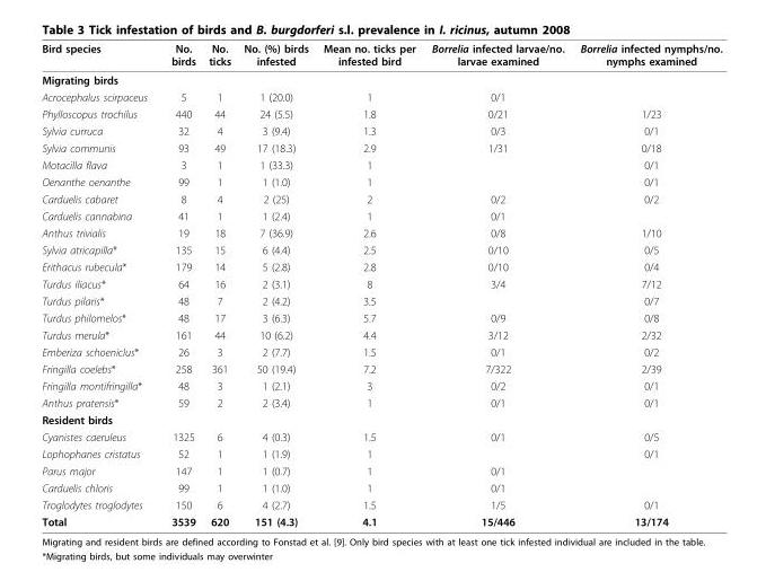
<table><thead><tr><td>Bird species</td><td>No. birds</td><td>No. ticks</td><td>No. (%) birds infested</td><td>Mean no. ticks per infested bird</td><td>Borrelia infected larvae/no. larvae examined</td><td>Borrelia infected nymphs/no. nymphs examined</td></tr></thead><tbody><tr><td colspan="7">Migrating birds</td></tr><tr><td>Acrocephalus scirpaceus</td><td>5</td><td>1</td><td>1 (20.0)</td><td>1</td><td>0/1</td><td></td></tr><tr><td>Phylloscopus trochilus</td><td>440</td><td>44</td><td>24 (5.5)</td><td>1.8</td><td>0/21</td><td>1/23</td></tr><tr><td>Sylvia curruca</td><td>32</td><td>4</td><td>3 (9.4)</td><td>1.3</td><td>0/3</td><td>0/1</td></tr><tr><td>Sylvia communis</td><td>93</td><td>49</td><td>17 (18.3)</td><td>2.9</td><td>1/31</td><td>0/18</td></tr><tr><td>Motacilla flava</td><td>3</td><td>1</td><td>1 (33.3)</td><td>1</td><td></td><td>0/1</td></tr><tr><td>Oenanthe oenanthe</td><td>99</td><td>1</td><td>1 (1.0)</td><td>1</td><td></td><td>0/1</td></tr><tr><td>Carduelis cabaret</td><td>8</td><td>4</td><td>2 (25)</td><td>2</td><td>0/2</td><td>0/2</td></tr><tr><td>Carduelis cannabina</td><td>41</td><td>1</td><td>1 (2.4)</td><td>1</td><td>0/1</td><td></td></tr><tr><td>Anthus trivialis</td><td>19</td><td>18</td><td>7 (36.9)</td><td>2.6</td><td>0/8</td><td>1/10</td></tr><tr><td>Sylvia atricapilla*</td><td>135</td><td>15</td><td>6 (4.4)</td><td>2.5</td><td>0/10</td><td>0/5</td></tr><tr><td>Erithacus rubecula*</td><td>179</td><td>14</td><td>5 (2.8)</td><td>2.8</td><td>0/10</td><td>0/4</td></tr><tr><td>Turdus iliacus*</td><td>64</td><td>16</td><td>2 (3.1)</td><td>8</td><td>3/4</td><td>7/12</td></tr><tr><td>Turdus pilaris*</td><td>48</td><td>7</td><td>2 (4.2)</td><td>3.5</td><td></td><td>0/7</td></tr><tr><td>Turdus philomelos*</td><td>48</td><td>17</td><td>3 (6.3)</td><td>5.7</td><td>0/9</td><td>0/8</td></tr><tr><td>Turdus merula*</td><td>161</td><td>44</td><td>10 (6.2)</td><td>4.4</td><td>3/12</td><td>2/32</td></tr><tr><td>Emberiza schoeniclus*</td><td>26</td><td>3</td><td>2 (7.7)</td><td>1.5</td><td>0/1</td><td>0/2</td></tr><tr><td>Fringilla coelebs*</td><td>258</td><td>361</td><td>50 (19.4)</td><td>7.2</td><td>7/322</td><td>2/39</td></tr><tr><td>Fringilla montifringilla*</td><td>48</td><td>3</td><td>1 (2.1)</td><td>3</td><td>0/2</td><td>0/1</td></tr><tr><td>Anthus pratensis*</td><td>59</td><td>2</td><td>2 (3.4)</td><td>1</td><td>0/1</td><td>0/1</td></tr><tr><td colspan="7">Resident birds</td></tr><tr><td>Cyanistes caeruleus</td><td>1325</td><td>6</td><td>4 (0.3)</td><td>1.5</td><td>0/1</td><td>0/5</td></tr><tr><td>Lophophanes cristatus</td><td>52</td><td>1</td><td>1 (1.9)</td><td>1</td><td></td><td>0/1</td></tr><tr><td>Parus major</td><td>147</td><td>1</td><td>1 (0.7)</td><td>1</td><td>0/1</td><td></td></tr><tr><td>Carduelis chloris</td><td>99</td><td>1</td><td>1 (1.0)</td><td>1</td><td>0/1</td><td></td></tr><tr><td>Troglodytes troglodytes</td><td>150</td><td>6</td><td>4 (2.7)</td><td>1.5</td><td>1/5</td><td>0/1</td></tr><tr><td>Total</td><td>3539</td><td>620</td><td>151 (4.3)</td><td>4.1</td><td>15/446</td><td>13/174</td></tr></tbody></table>